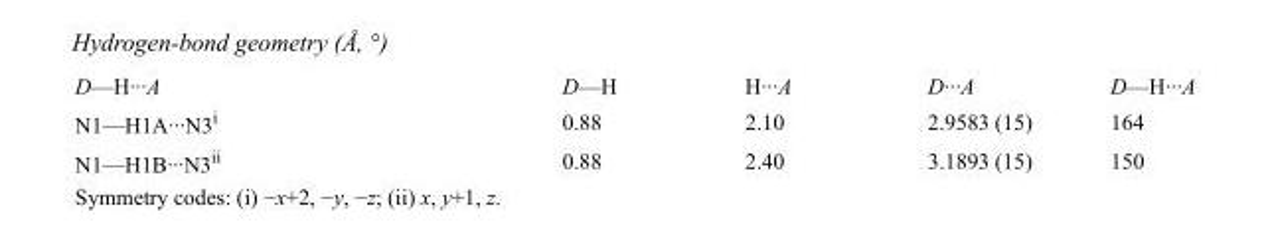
<table><tbody><tr><td>D—H···A</td><td>D—H</td><td>H···A</td><td>D···A</td><td>D—H···A</td></tr><tr><td>N1—H1A···N3<sup>i</sup></td><td>0.88</td><td>2.10</td><td>2.9583 (15)</td><td>164</td></tr><tr><td>N1—H1B···N3<sup>ii</sup></td><td>0.88</td><td>2.40</td><td>3.1893 (15)</td><td>150</td></tr></tbody></table>